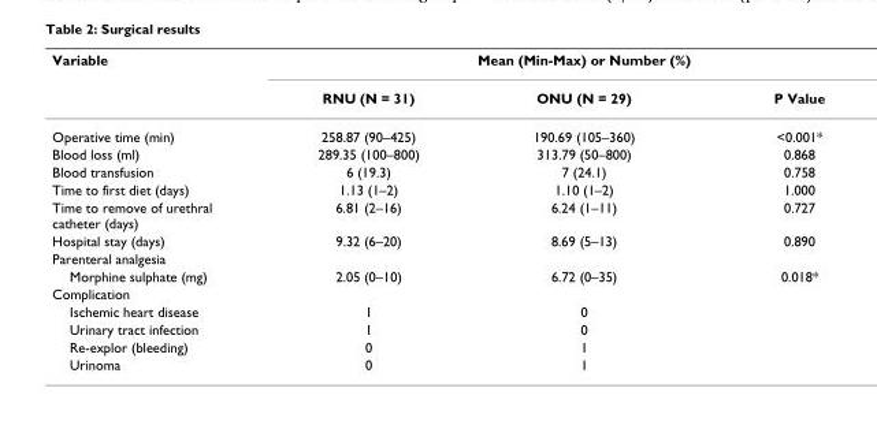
<table><thead><tr><td rowspan="2">Variable</td><td colspan="3">Mean (Min-Max) or Number (%)</td></tr><tr><td>RNU (N = 31)</td><td>ONU (N = 29)</td><td>P Value</td></tr></thead><tbody><tr><td>Operative time (min)</td><td>258.87 (90–425)</td><td>190.69 (105–360)</td><td>&lt;0.001*</td></tr><tr><td>Blood loss (ml)</td><td>289.35 (100–800)</td><td>313.79 (50–800)</td><td>0.868</td></tr><tr><td>Blood transfusion</td><td>6 (19.3)</td><td>7 (24.1)</td><td>0.758</td></tr><tr><td>Time to first diet (days)</td><td>1.13 (1–2)</td><td>1.10 (1–2)</td><td>1.000</td></tr><tr><td>Time to remove of urethral catheter (days)</td><td>6.81 (2–16)</td><td>6.24 (1–11)</td><td>0.727</td></tr><tr><td>Hospital stay (days)</td><td>9.32 (6–20)</td><td>8.69 (5–13)</td><td>0.890</td></tr><tr><td colspan="4">Parenteral analgesia</td></tr><tr><td>Morphine sulphate (mg)</td><td>2.05 (0–10)</td><td>6.72 (0–35)</td><td>0.018*</td></tr><tr><td colspan="4">Complication</td></tr><tr><td>Ischemic heart disease</td><td>1</td><td>0</td><td></td></tr><tr><td>Urinary tract infection</td><td>1</td><td>0</td><td></td></tr><tr><td>Re-explor (bleeding)</td><td>0</td><td>1</td><td></td></tr><tr><td>Urinoma</td><td>0</td><td>1</td><td></td></tr></tbody></table>